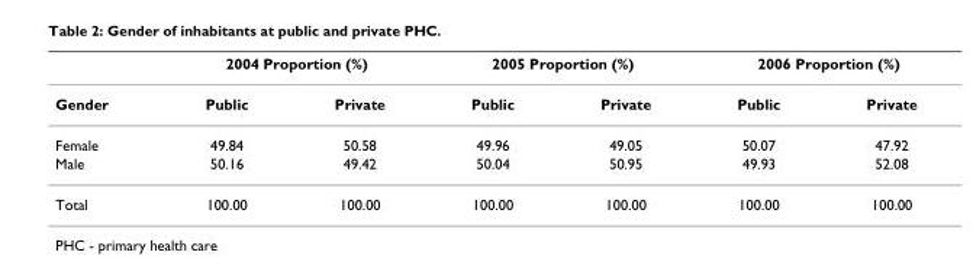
<table><thead><tr><td rowspan="2">Gender</td><td colspan="2">2004 Proportion (%)</td><td colspan="2">2005 Proportion (%)</td><td colspan="2">2006 Proportion (%)</td></tr><tr><td>Public</td><td>Private</td><td>Public</td><td>Private</td><td>Public</td><td>Private</td></tr></thead><tbody><tr><td>Female</td><td>49.84</td><td>50.58</td><td>49.96</td><td>49.05</td><td>50.07</td><td>47.92</td></tr><tr><td>Male</td><td>50.16</td><td>49.42</td><td>50.04</td><td>50.95</td><td>49.93</td><td>52.08</td></tr><tr><td>Total</td><td>100.00</td><td>100.00</td><td>100.00</td><td>100.00</td><td>100.00</td><td>100.00</td></tr></tbody></table>